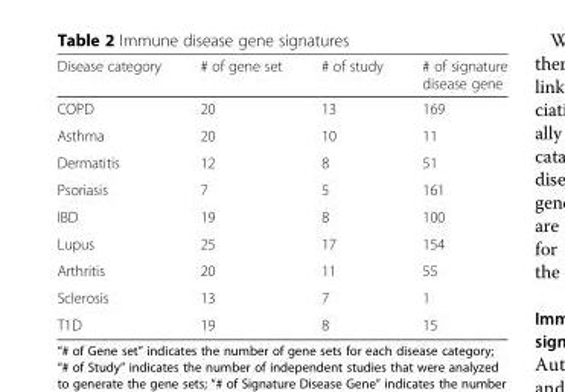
<table><thead><tr><td>Disease category</td><td># of gene set</td><td># of study</td><td># of signature disease gene</td></tr></thead><tbody><tr><td>COPD</td><td>20</td><td>13</td><td>169</td></tr><tr><td>Asthma</td><td>20</td><td>10</td><td>11</td></tr><tr><td>Dermatitis</td><td>12</td><td>8</td><td>51</td></tr><tr><td>Psoriasis</td><td>7</td><td>5</td><td>161</td></tr><tr><td>IBD</td><td>19</td><td>8</td><td>100</td></tr><tr><td>Lupus</td><td>25</td><td>17</td><td>154</td></tr><tr><td>Arthritis</td><td>20</td><td>11</td><td>55</td></tr><tr><td>Sclerosis</td><td>13</td><td>7</td><td>1</td></tr><tr><td>T1D</td><td>19</td><td>8</td><td>15</td></tr></tbody></table>